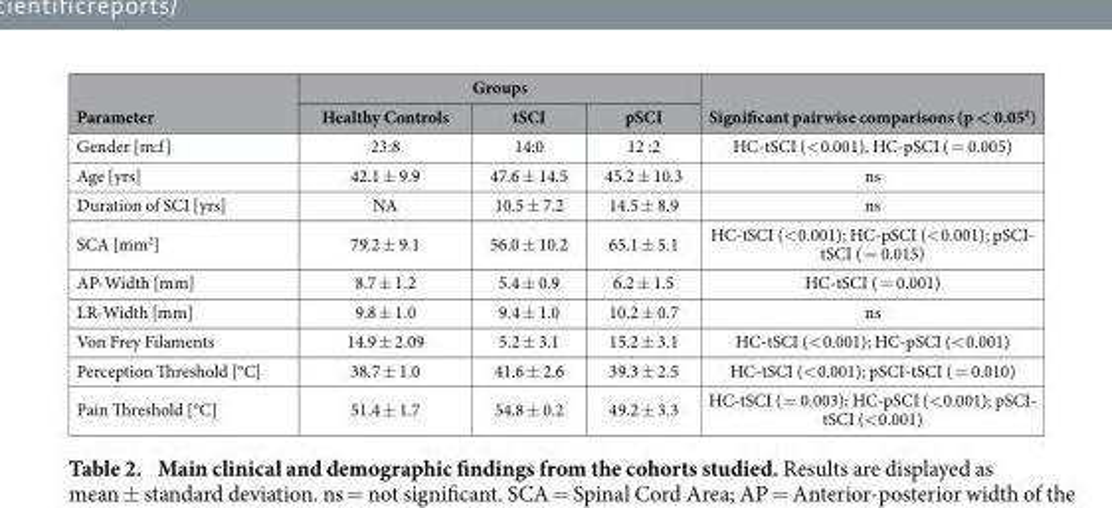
<table><thead><tr><td rowspan="2">Parameter</td><td colspan="3">Groups</td><td rowspan="2">Significant pairwise comparisons (p &lt; 0.05‡)</td></tr><tr><td>Healthy Controls</td><td>tSCI</td><td>pSCI</td></tr></thead><tbody><tr><td>Gender [m:f]</td><td>23:8</td><td>14:0</td><td>12 :2</td><td>HC-tSCI (&lt; 0.001), HC-pSCI ( = 0.005)</td></tr><tr><td>Age [yrs]</td><td>42.1 ± 9.9</td><td>47.6 ± 14.5</td><td>45.2 ± 10.3</td><td>ns</td></tr><tr><td>Duration of SCI [yrs]</td><td>NA</td><td>10.5 ± 7.2</td><td>14.5 ± 8.9</td><td>ns</td></tr><tr><td>SCA [mm<sup>2</sup>]</td><td>79.2 ± 9.1</td><td>56.0 ± 10.2</td><td>65.1 ± 5.1</td><td>HC-tSCI (&lt; 0.001); HC-pSCI (&lt; 0.001); pSCI- tSCI ( = 0.015)</td></tr><tr><td>AP-Width [mm]</td><td>8.7 ± 1.2</td><td>5.4 ± 0.9</td><td>6.2 ± 1.5</td><td>HC-tSCI ( = 0.001)</td></tr><tr><td>LR-Width [mm]</td><td>9.8 ± 1.0</td><td>9.4 ± 1.0</td><td>10.2 ± 0.7</td><td>ns</td></tr><tr><td>Von Frey Filaments</td><td>14.9 ± 2.09</td><td>5.2 ± 3.1</td><td>15.2 ± 3.1</td><td>HC-tSCI (&lt; 0.001); HC-pSCI (&lt; 0.001)</td></tr><tr><td>Perception Threshold [°C]</td><td>38.7 ± 1.0</td><td>41.6 ± 2.6</td><td>39.3 ± 2.5</td><td>HC-tSCI (&lt; 0.001); pSCI-tSCI ( = 0.010)</td></tr><tr><td>Pain Threshold [°C]</td><td>51.4 ± 1.7</td><td>54.8 ± 0.2</td><td>49.2 ± 3.3</td><td>HC-tSCI ( = 0.003); HC-pSCI (&lt; 0.001); pSCI- tSCI (&lt; 0.001)</td></tr></tbody></table>